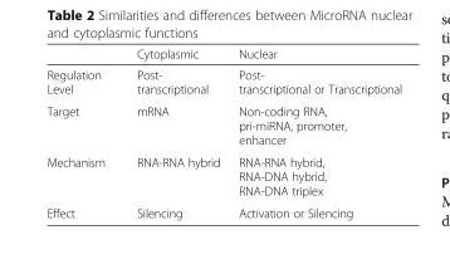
<table><thead><tr><td></td><td>Cytoplasmic</td><td>Nuclear</td></tr></thead><tbody><tr><td>Regulation Level</td><td>Post- transcriptional</td><td>Post- transcriptional or Transcriptional</td></tr><tr><td>Target</td><td>mRNA</td><td>Non-coding RNA, pri-miRNA, promoter, enhancer</td></tr><tr><td>Mechanism</td><td>RNA-RNA hybrid</td><td>RNA-RNA hybrid, RNA-DNA hybrid, RNA-DNA triplex</td></tr><tr><td>Effect</td><td>Silencing</td><td>Activation or Silencing</td></tr></tbody></table>